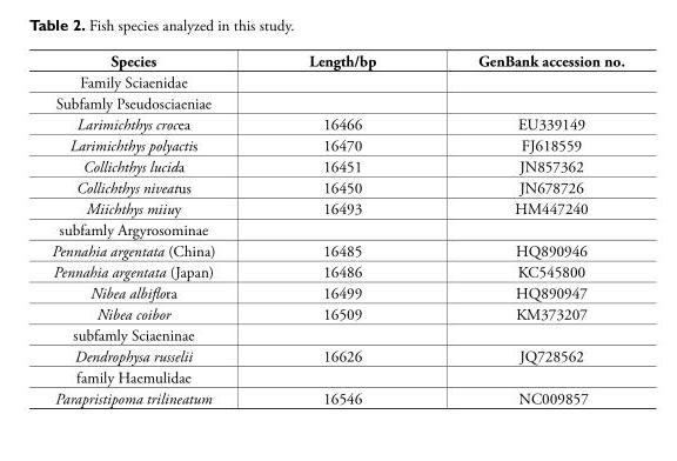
<table><thead><tr><td>Species</td><td>Length/bp</td><td>GenBank accession no.</td></tr></thead><tbody><tr><td colspan="3">Family Sciaenidae</td></tr><tr><td colspan="3">Subfamly Pseudosciaeniae</td></tr><tr><td>Larimichthys crocea</td><td>16466</td><td>EU339149</td></tr><tr><td>Larimichthys polyactis</td><td>16470</td><td>FJ618559</td></tr><tr><td>Collichthys lucida</td><td>16451</td><td>JN857362</td></tr><tr><td>Collichthys niveatus</td><td>16450</td><td>JN678726</td></tr><tr><td>Miichthys miiuy</td><td>16493</td><td>HM447240</td></tr><tr><td colspan="3">subfamly Argyrosominae</td></tr><tr><td>Pennahia argentata (China)</td><td>16485</td><td>HQ890946</td></tr><tr><td>Pennahia argentata (Japan)</td><td>16486</td><td>KC545800</td></tr><tr><td>Nibea albiflora</td><td>16499</td><td>HQ890947</td></tr><tr><td>Nibea coibor</td><td>16509</td><td>KM373207</td></tr><tr><td colspan="3">subfamly Sciaeninae</td></tr><tr><td>Dendrophysa russelii</td><td>16626</td><td>JQ728562</td></tr><tr><td colspan="3">family Haemulidae</td></tr><tr><td>Parapristipoma trilineatum</td><td>16546</td><td>NC009857</td></tr></tbody></table>